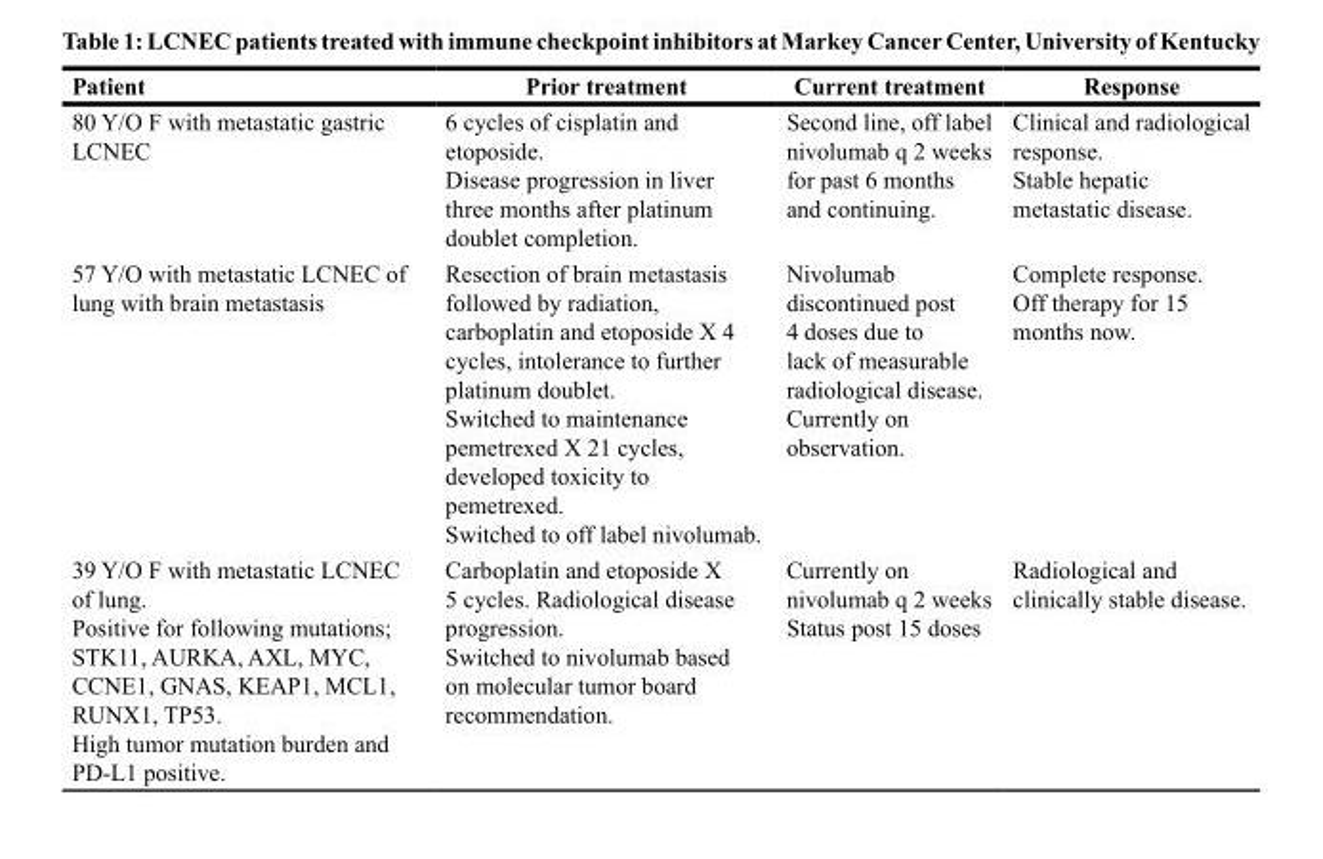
<table><thead><tr><td>Patient</td><td>Prior treatment</td><td>Current treatment</td><td>Response</td></tr></thead><tbody><tr><td>80 Y/O F with metastatic gastric LCNEC</td><td>6 cycles of cisplatin and etoposide. Disease progression in liver three months after platinum doublet completion.</td><td>Second line, off label nivolumab q 2 weeks for past 6 months and continuing.</td><td>Clinical and radiological response. Stable hepatic metastatic disease.</td></tr><tr><td>57 Y/O with metastatic LCNEC of lung with brain metastasis</td><td>Resection of brain metastasis followed by radiation, carboplatin and etoposide X 4 cycles, intolerance to further platinum doublet. Switched to maintenance pemetrexed X 21 cycles, developed toxicity to pemetrexed. Switched to off label nivolumab.</td><td>Nivolumab discontinued post 4 doses due to lack of measurable radiological disease. Currently on observation.</td><td>Complete response. Off therapy for 15 months now.</td></tr><tr><td>39 Y/O F with metastatic LCNEC of lung. Positive for following mutations; STK11, AURKA, AXL, MYC, CCNE1, GNAS, KEAP1, MCL1, RUNX1, TP53. High tumor mutation burden and PD-L1 positive.</td><td>Carboplatin and etoposide X 5 cycles. Radiological disease progression. Switched to nivolumab based on molecular tumor board recommendation.</td><td>Currently on nivolumab q 2 weeks Status post 15 doses</td><td>Radiological and clinically stable disease.</td></tr></tbody></table>